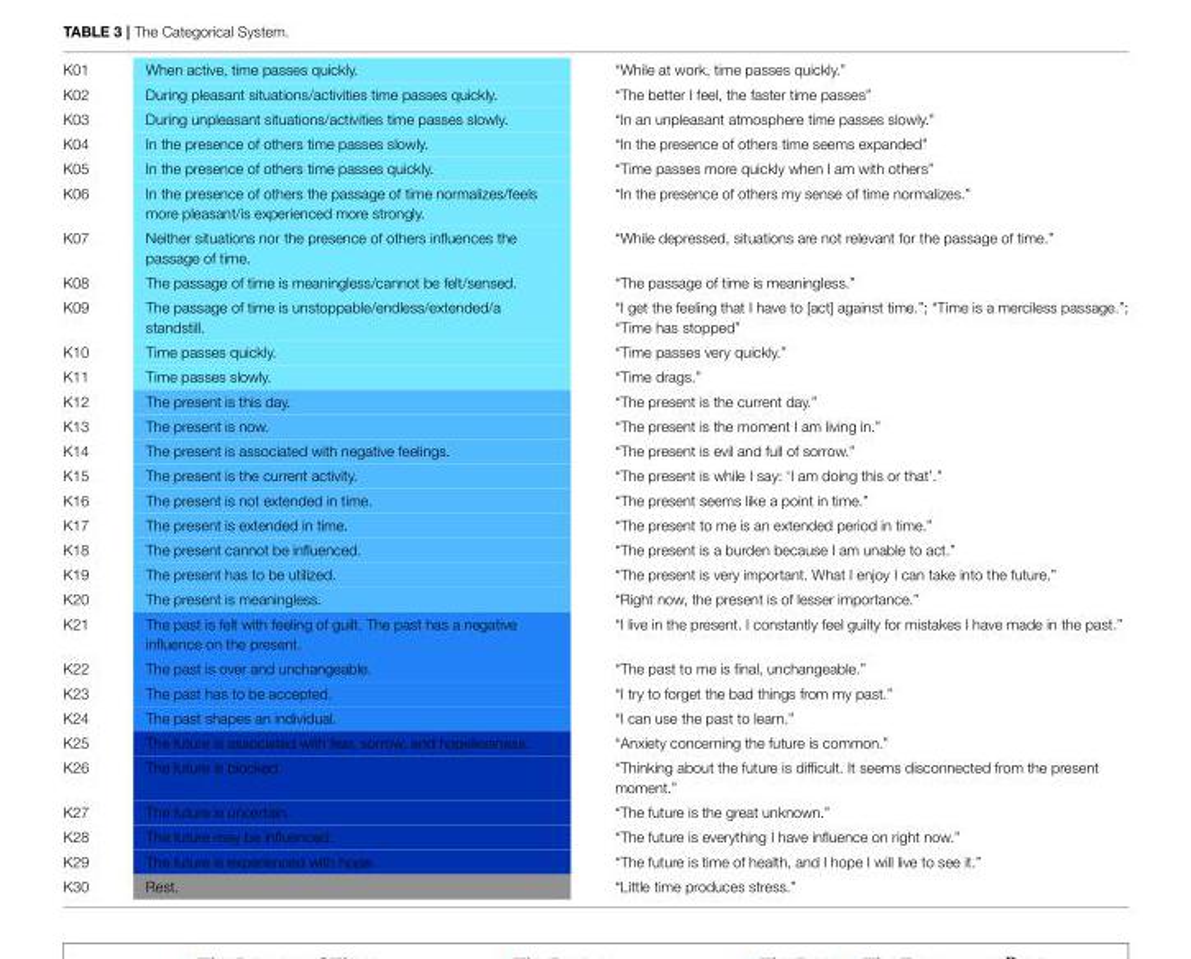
<table><tbody><tr><td>K01</td><td>When active, time passes quickly.</td><td>“While at work, time passes quickly.”</td></tr><tr><td>K02</td><td>During pleasant situations/activities time passes quickly.</td><td>“The better I feel, the faster time passes”</td></tr><tr><td>K03</td><td>During unpleasant situations/activities time passes slowly.</td><td>“In an unpleasant atmosphere time passes slowly.”</td></tr><tr><td>K04</td><td>In the presence of others time passes slowly.</td><td>“In the presence of others time seems expanded”</td></tr><tr><td>K05</td><td>In the presence of others time passes quickly.</td><td>“Time passes more quickly when I am with others”</td></tr><tr><td>K06</td><td>In the presence of others the passage of time normalizes/feels more pleasant/is experienced more strongly.</td><td>“In the presence of others my sense of time normalizes.”</td></tr><tr><td>K07</td><td>Neither situations nor the presence of others influences the passage of time.</td><td>“While depressed, situations are not relevant for the passage of time.”</td></tr><tr><td>K08</td><td>The passage of time is meaningless/cannot be felt/sensed.</td><td>“The passage of time is meaningless.”</td></tr><tr><td>K09</td><td>The passage of time is unstoppable/endless/extended/a standstill.</td><td>“I get the feeling that I have to [act] against time.”; “Time is a merciless passage.”; “Time has stopped”</td></tr><tr><td>K10</td><td>Time passes quickly.</td><td>“Time passes very quickly.”</td></tr><tr><td>K11</td><td>Time passes slowly.</td><td>“Time drags.”</td></tr><tr><td>K12</td><td>The present is this day.</td><td>“The present is the current day.”</td></tr><tr><td>K13</td><td>The present is now.</td><td>“The present is the moment I am living in.”</td></tr><tr><td>K14</td><td>The present is associated with negative feelings.</td><td>“The present is evil and full of sorrow.”</td></tr><tr><td>K15</td><td>The present is the current activity.</td><td>“The present is while I say: ‘I am doing this or that’.”</td></tr><tr><td>K16</td><td>The present is not extended in time.</td><td>“The present seems like a point in time.”</td></tr><tr><td>K17</td><td>The present is extended in time.</td><td>“The present to me is an extended period in time.”</td></tr><tr><td>K18</td><td>The present cannot be influenced.</td><td>“The present is a burden because I am unable to act.”</td></tr><tr><td>K19</td><td>The present has to be utilized.</td><td>“The present is very important. What I enjoy I can take into the future.”</td></tr><tr><td>K20</td><td>The present is meaningless.</td><td>“Right now, the present is of lesser importance.”</td></tr><tr><td>K21</td><td>The past is felt with feeling of guilt. The past has a negative influence on the present.</td><td>“I live in the present. I constantly feel guilty for mistakes I have made in the past.”</td></tr><tr><td>K22</td><td>The past is over and unchangeable.</td><td>“The past to me is final, unchangeable.”</td></tr><tr><td>K23</td><td>The past has to be accepted.</td><td>“I try to forget the bad things from my past.”</td></tr><tr><td>K24</td><td>The past shapes an individual.</td><td>“I can use the past to learn.”</td></tr><tr><td>K25</td><td>The future is associated with fear, sorrow, and hopelessness.</td><td>“Anxiety concerning the future is common.”</td></tr><tr><td>K26</td><td>The future is blocked.</td><td>“Thinking about the future is difficult. It seems disconnected from the present moment.”</td></tr><tr><td>K27</td><td>The future is uncertain.</td><td>“The future is the great unknown.”</td></tr><tr><td>K28</td><td>The future may be influenced.</td><td>“The future is everything I have influence on right now.”</td></tr><tr><td>K29</td><td>The future is experienced with hope.</td><td>“The future is time of health, and I hope I will live to see it.”</td></tr><tr><td>K30</td><td>Rest.</td><td>“Little time produces stress.”</td></tr></tbody></table>